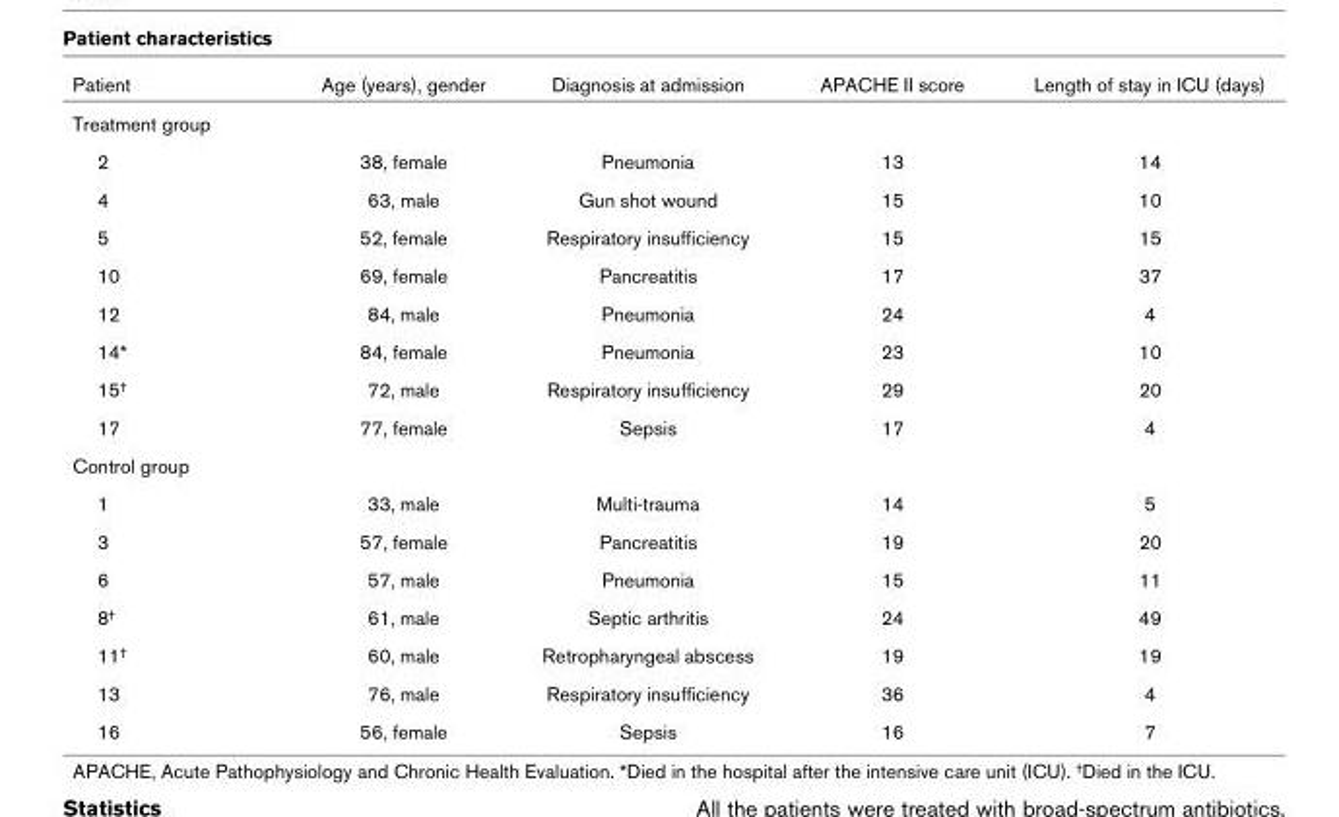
<table><thead><tr><td>Patient</td><td>Age (years), gender</td><td>Diagnosis at admission</td><td>APACHE II score</td><td>Length of stay in ICU (days)</td></tr></thead><tbody><tr><td colspan="5">Treatment group</td></tr><tr><td>2</td><td>38, female</td><td>Pneumonia</td><td>13</td><td>14</td></tr><tr><td>4</td><td>63, male</td><td>Gun shot wound</td><td>15</td><td>10</td></tr><tr><td>5</td><td>52, female</td><td>Respiratory insufficiency</td><td>15</td><td>15</td></tr><tr><td>10</td><td>69, female</td><td>Pancreatitis</td><td>17</td><td>37</td></tr><tr><td>12</td><td>84, male</td><td>Pneumonia</td><td>24</td><td>4</td></tr><tr><td>14*</td><td>84, female</td><td>Pneumonia</td><td>23</td><td>10</td></tr><tr><td>15†</td><td>72, male</td><td>Respiratory insufficiency</td><td>29</td><td>20</td></tr><tr><td>17</td><td>77, female</td><td>Sepsis</td><td>17</td><td>4</td></tr><tr><td colspan="5">Control group</td></tr><tr><td>1</td><td>33, male</td><td>Multi-trauma</td><td>14</td><td>5</td></tr><tr><td>3</td><td>57, female</td><td>Pancreatitis</td><td>19</td><td>20</td></tr><tr><td>6</td><td>57, male</td><td>Pneumonia</td><td>15</td><td>11</td></tr><tr><td>8†</td><td>61, male</td><td>Septic arthritis</td><td>24</td><td>49</td></tr><tr><td>11†</td><td>60, male</td><td>Retropharyngeal abscess</td><td>19</td><td>19</td></tr><tr><td>13</td><td>76, male</td><td>Respiratory insufficiency</td><td>36</td><td>4</td></tr><tr><td>16</td><td>56, female</td><td>Sepsis</td><td>16</td><td>7</td></tr></tbody></table>